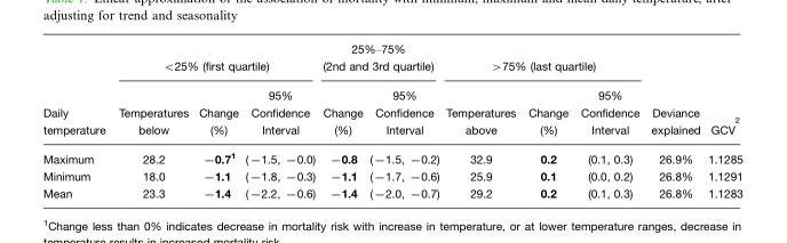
<table><thead><tr><td rowspan="2">Daily temperature</td><td colspan="3">&lt;25% (first quartile)</td><td colspan="2">25%–75% (2nd and 3rd quartile)</td><td colspan="3">&gt;75% (last quartile)</td><td rowspan="2">Deviance explained</td><td rowspan="2">GCV <sup>2</sup></td></tr><tr><td>Temperatures below</td><td>Change (%)</td><td>95% Confidence Interval</td><td>Change (%)</td><td>95% Confidence Interval</td><td>Temperatures above</td><td>Change (%)</td><td>95% Confidence Interval</td></tr></thead><tbody><tr><td>Maximum</td><td>28.2</td><td>−0.71</td><td>(−1.5, −0.0)</td><td>−0.8</td><td>(−1.5, −0.2)</td><td>32.9</td><td>0.2</td><td>(0.1, 0.3)</td><td>26.9%</td><td>1.1285</td></tr><tr><td>Minimum</td><td>18.0</td><td>−1.1</td><td>(−1.8, −0.3)</td><td>−1.1</td><td>(−1.7, −0.6)</td><td>25.9</td><td>0.1</td><td>(0.0, 0.2)</td><td>26.8%</td><td>1.1291</td></tr><tr><td>Mean</td><td>23.3</td><td>−1.4</td><td>(−2.2, −0.6)</td><td>−1.4</td><td>(−2.0, −0.7)</td><td>29.2</td><td>0.2</td><td>(0.1, 0.3)</td><td>26.8%</td><td>1.1283</td></tr></tbody></table>